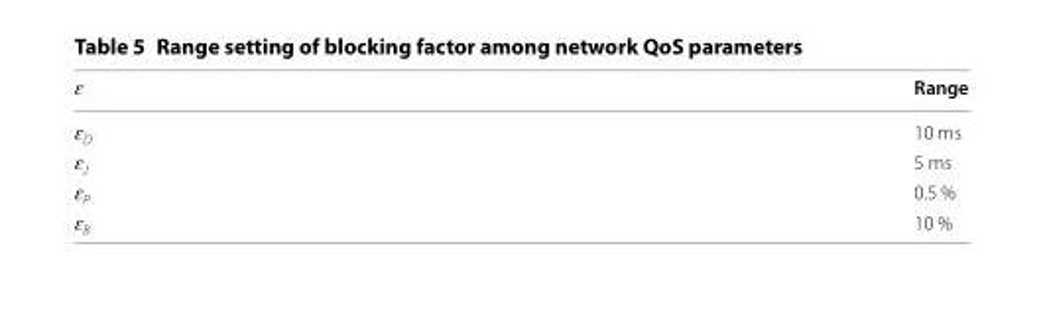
<table><thead><tr><td>ɛ</td><td>Range</td></tr></thead><tbody><tr><td>ɛ<sub>D</sub></td><td>10 ms</td></tr><tr><td>ɛ<sub>J</sub></td><td>5 ms</td></tr><tr><td>ɛ<sub>P</sub></td><td>0.5 %</td></tr><tr><td>ɛ<sub>B</sub></td><td>10 %</td></tr></tbody></table>